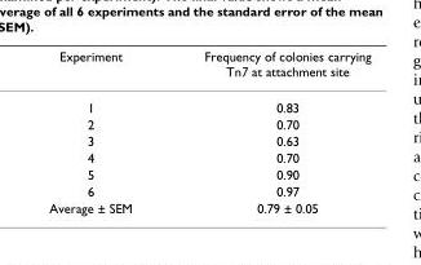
<table><thead><tr><td>Experiment</td><td>Frequency of colonies carrying Tn7 at attachment site</td></tr></thead><tbody><tr><td>1</td><td>0.83</td></tr><tr><td>2</td><td>0.70</td></tr><tr><td>3</td><td>0.63</td></tr><tr><td>4</td><td>0.70</td></tr><tr><td>5</td><td>0.90</td></tr><tr><td>6</td><td>0.97</td></tr><tr><td>Average ± SEM</td><td>0.79 ± 0.05</td></tr></tbody></table>